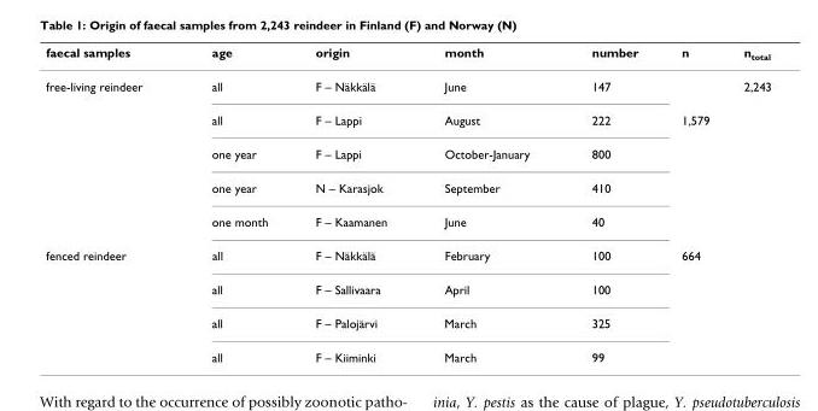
<table><thead><tr><td>faecal samples</td><td>age</td><td>origin</td><td>month</td><td>number</td><td>n</td><td>n<sub>total</sub></td></tr></thead><tbody><tr><td rowspan="5">free-living reindeer</td><td>all</td><td>F – Näkkälä</td><td>June</td><td>147</td><td></td><td>2,243</td></tr><tr><td>all</td><td>F – Lappi</td><td>August</td><td>222</td><td>1,579</td><td></td></tr><tr><td>one year</td><td>F – Lappi</td><td>October-January</td><td>800</td><td></td><td></td></tr><tr><td>one year</td><td>N – Karasjok</td><td>September</td><td>410</td><td></td><td></td></tr><tr><td>one month</td><td>F – Kaamanen</td><td>June</td><td>40</td><td></td><td></td></tr><tr><td rowspan="4">fenced reindeer</td><td>all</td><td>F – Näkkälä</td><td>February</td><td>100</td><td>664</td><td></td></tr><tr><td>all</td><td>F – Sallivaara</td><td>April</td><td>100</td><td></td><td></td></tr><tr><td>all</td><td>F – Palojärvi</td><td>March</td><td>325</td><td></td><td></td></tr><tr><td>all</td><td>F – Kiiminki</td><td>March</td><td>99</td><td></td><td></td></tr></tbody></table>